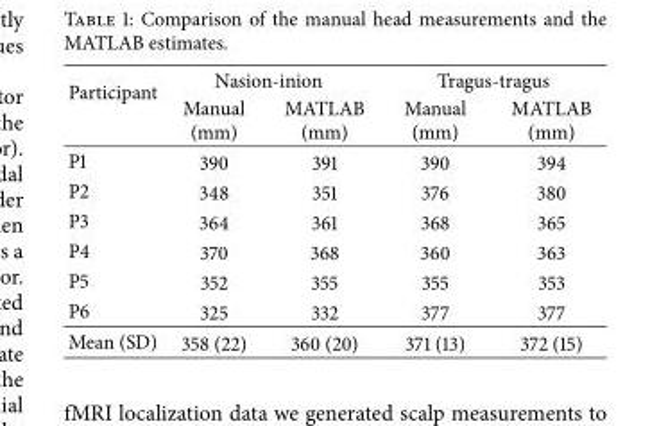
<table><thead><tr><td rowspan="2">Participant</td><td colspan="2">Nasion-inion</td><td colspan="2">Tragus-tragus</td></tr><tr><td>Manual (mm)</td><td>MATLAB (mm)</td><td>Manual (mm)</td><td>MATLAB (mm)</td></tr></thead><tbody><tr><td>P1</td><td>390</td><td>391</td><td>390</td><td>394</td></tr><tr><td>P2</td><td>348</td><td>351</td><td>376</td><td>380</td></tr><tr><td>P3</td><td>364</td><td>361</td><td>368</td><td>365</td></tr><tr><td>P4</td><td>370</td><td>368</td><td>360</td><td>363</td></tr><tr><td>P5</td><td>352</td><td>355</td><td>355</td><td>353</td></tr><tr><td>P6</td><td>325</td><td>332</td><td>377</td><td>377</td></tr><tr><td>Mean (SD)</td><td>358 (22)</td><td>360 (20)</td><td>371 (13)</td><td>372 (15)</td></tr></tbody></table>